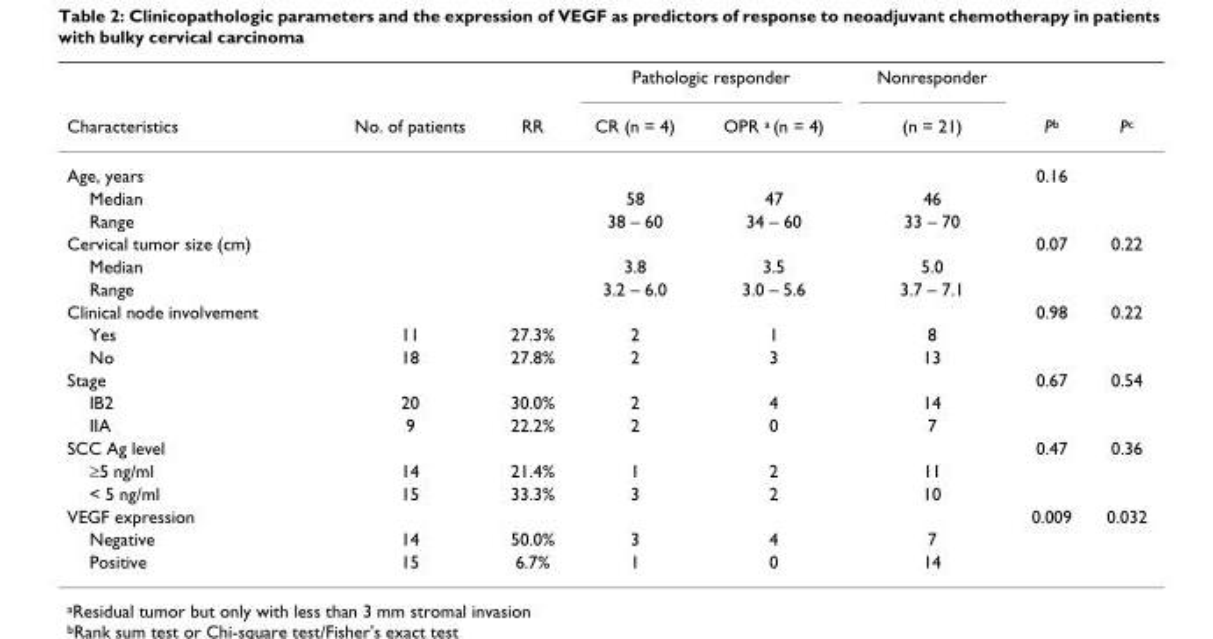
<table><thead><tr><td rowspan="2">Characteristics</td><td rowspan="2">No. of patients</td><td rowspan="2">RR</td><td colspan="2">Pathologic responder</td><td rowspan="2">Nonresponder (n = 21)</td><td rowspan="2">P<sup>b</sup></td><td rowspan="2">P<sup>c</sup></td></tr><tr><td>CR (n = 4)</td><td>OPR <sup>a</sup> (n = 4)</td></tr></thead><tbody><tr><td>Age, years</td><td></td><td></td><td></td><td></td><td></td><td>0.16</td><td></td></tr><tr><td>Median</td><td></td><td></td><td>58</td><td>47</td><td>46</td><td></td><td></td></tr><tr><td>Range</td><td></td><td></td><td>38 – 60</td><td>34 – 60</td><td>33 – 70</td><td></td><td></td></tr><tr><td>Cervical tumor size (cm)</td><td></td><td></td><td></td><td></td><td></td><td>0.07</td><td>0.22</td></tr><tr><td>Median</td><td></td><td></td><td>3.8</td><td>3.5</td><td>5.0</td><td></td><td></td></tr><tr><td>Range</td><td></td><td></td><td>3.2 – 6.0</td><td>3.0 – 5.6</td><td>3.7 – 7.1</td><td></td><td></td></tr><tr><td>Clinical node involvement</td><td></td><td></td><td></td><td></td><td></td><td>0.98</td><td>0.22</td></tr><tr><td>Yes</td><td>11</td><td>27.3%</td><td>2</td><td>1</td><td>8</td><td></td><td></td></tr><tr><td>No</td><td>18</td><td>27.8%</td><td>2</td><td>3</td><td>13</td><td></td><td></td></tr><tr><td>Stage</td><td></td><td></td><td></td><td></td><td></td><td>0.67</td><td>0.54</td></tr><tr><td>IB2</td><td>20</td><td>30.0%</td><td>2</td><td>4</td><td>14</td><td></td><td></td></tr><tr><td>IIA</td><td>9</td><td>22.2%</td><td>2</td><td>0</td><td>7</td><td></td><td></td></tr><tr><td>SCC Ag level</td><td></td><td></td><td></td><td></td><td></td><td>0.47</td><td>0.36</td></tr><tr><td>≥5 ng/ml</td><td>14</td><td>21.4%</td><td>1</td><td>2</td><td>11</td><td></td><td></td></tr><tr><td>&lt; 5 ng/ml</td><td>15</td><td>33.3%</td><td>3</td><td>2</td><td>10</td><td></td><td></td></tr><tr><td>VEGF expression</td><td></td><td></td><td></td><td></td><td></td><td>0.009</td><td>0.032</td></tr><tr><td>Negative</td><td>14</td><td>50.0%</td><td>3</td><td>4</td><td>7</td><td></td><td></td></tr><tr><td>Positive</td><td>15</td><td>6.7%</td><td>1</td><td>0</td><td>14</td><td></td><td></td></tr></tbody></table>